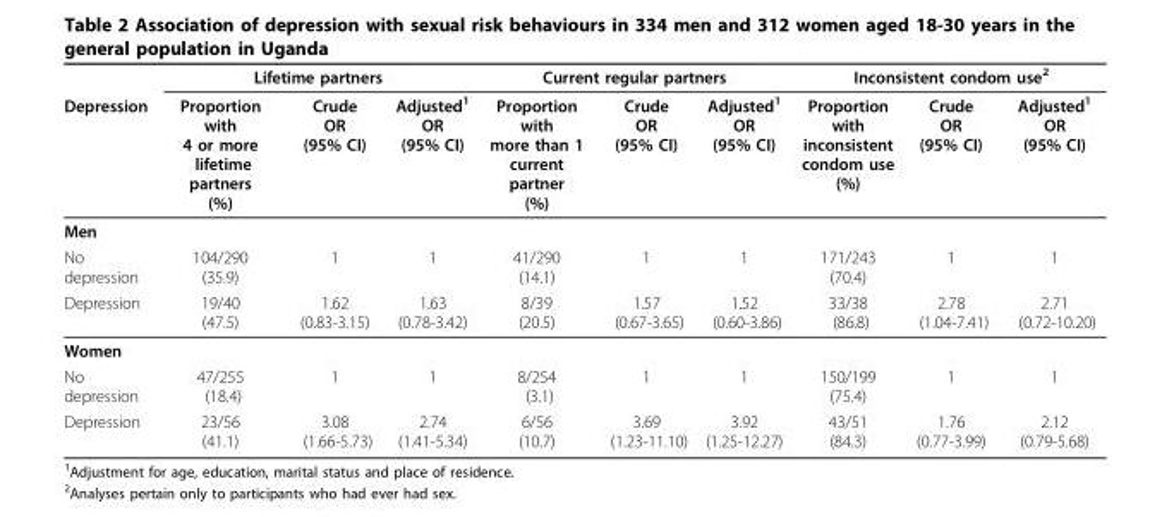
<table><thead><tr><td rowspan="2">Depression</td><td colspan="3">Lifetime partners</td><td colspan="3">Current regular partners</td><td colspan="3">Inconsistent condom use<sup>2</sup></td></tr><tr><td>Proportion with 4 or more lifetime partners (%)</td><td>Crude OR (95% CI)</td><td>Adjusted<sup>1</sup> OR (95% CI)</td><td>Proportion with more than 1 current partner (%)</td><td>Crude OR (95% CI)</td><td>Adjusted<sup>1</sup> OR (95% CI)</td><td>Proportion with inconsistent condom use (%)</td><td>Crude OR (95% CI)</td><td>Adjusted<sup>1</sup> OR (95% CI)</td></tr></thead><tbody><tr><td colspan="10">Men</td></tr><tr><td>No depression</td><td>104/290 (35.9)</td><td>1</td><td>1</td><td>41/290 (14.1)</td><td>1</td><td>1</td><td>171/243 (70.4)</td><td>1</td><td>1</td></tr><tr><td>Depression</td><td>19/40 (47.5)</td><td>1.62 (0.83-3.15)</td><td>1.63 (0.78-3.42)</td><td>8/39 (20.5)</td><td>1.57 (0.67-3.65)</td><td>1.52 (0.60-3.86)</td><td>33/38 (86.8)</td><td>2.78 (1.04-7.41)</td><td>2.71 (0.72-10.20)</td></tr><tr><td colspan="10">Women</td></tr><tr><td>No depression</td><td>47/255 (18.4)</td><td>1</td><td>1</td><td>8/254 (3.1)</td><td>1</td><td>1</td><td>150/199 (75.4)</td><td>1</td><td>1</td></tr><tr><td>Depression</td><td>23/56 (41.1)</td><td>3.08 (1.66-5.73)</td><td>2.74 (1.41-5.34)</td><td>6/56 (10.7)</td><td>3.69 (1.23-11.10)</td><td>3.92 (1.25-12.27)</td><td>43/51 (84.3)</td><td>1.76 (0.77-3.99)</td><td>2.12 (0.79-5.68)</td></tr></tbody></table>